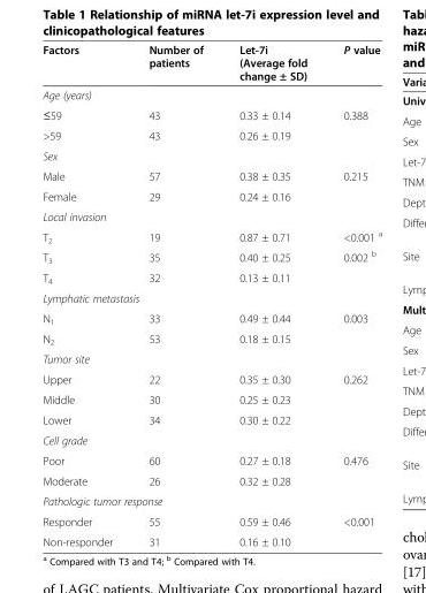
<table><thead><tr><td>Factors</td><td>Number of patients</td><td>Let-7i (Average fold change ± SD)</td><td>P value</td></tr></thead><tbody><tr><td colspan="4">Age (years)</td></tr><tr><td>≤59</td><td>43</td><td>0.33 ± 0.14</td><td>0.388</td></tr><tr><td>&gt;59</td><td>43</td><td>0.26 ± 0.19</td><td></td></tr><tr><td colspan="4">Sex</td></tr><tr><td>Male</td><td>57</td><td>0.38 ± 0.35</td><td>0.215</td></tr><tr><td>Female</td><td>29</td><td>0.24 ± 0.16</td><td></td></tr><tr><td colspan="4">Local invasion</td></tr><tr><td>T<sub>2</sub></td><td>19</td><td>0.87 ± 0.71</td><td>&lt;0.001 <sup>a</sup></td></tr><tr><td>T<sub>3</sub></td><td>35</td><td>0.40 ± 0.25</td><td>0.002 <sup>b</sup></td></tr><tr><td>T<sub>4</sub></td><td>32</td><td>0.13 ± 0.11</td><td></td></tr><tr><td colspan="4">Lymphatic metastasis</td></tr><tr><td>N<sub>1</sub></td><td>33</td><td>0.49 ± 0.44</td><td>0.003</td></tr><tr><td>N<sub>2</sub></td><td>53</td><td>0.18 ± 0.15</td><td></td></tr><tr><td colspan="4">Tumor site</td></tr><tr><td>Upper</td><td>22</td><td>0.35 ± 0.30</td><td>0.262</td></tr><tr><td>Middle</td><td>30</td><td>0.25 ± 0.23</td><td></td></tr><tr><td>Lower</td><td>34</td><td>0.30 ± 0.22</td><td></td></tr><tr><td colspan="4">Cell grade</td></tr><tr><td>Poor</td><td>60</td><td>0.27 ± 0.18</td><td>0.476</td></tr><tr><td>Moderate</td><td>26</td><td>0.32 ± 0.28</td><td></td></tr><tr><td colspan="4">Pathologic tumor response</td></tr><tr><td>Responder</td><td>55</td><td>0.59 ± 0.46</td><td>&lt;0.001</td></tr><tr><td>Non-responder</td><td>31</td><td>0.16 ± 0.10</td><td></td></tr></tbody></table>